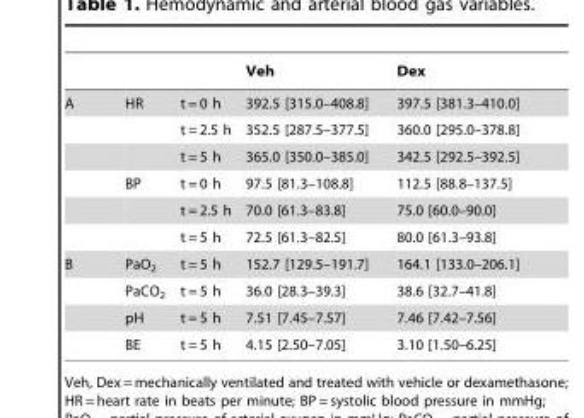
<table><thead><tr><td></td><td></td><td></td><td>Veh</td><td>Dex</td></tr></thead><tbody><tr><td rowspan="6">A</td><td>HR</td><td>t = 0 h</td><td>392.5 [315.0–408.8]</td><td>397.5 [381.3–410.0]</td></tr><tr><td></td><td>t = 2.5 h</td><td>352.5 [287.5–377.5]</td><td>360.0 [295.0–378.8]</td></tr><tr><td></td><td>t = 5 h</td><td>365.0 [350.0–385.0]</td><td>342.5 [292.5–392.5]</td></tr><tr><td>BP</td><td>t = 0 h</td><td>97.5 [81.3–108.8]</td><td>112.5 [88.8–137.5]</td></tr><tr><td></td><td>t = 2.5 h</td><td>70.0 [61.3–83.8]</td><td>75.0 [60.0–90.0]</td></tr><tr><td></td><td>t = 5 h</td><td>72.5 [61.3–82.5]</td><td>80.0 [61.3–93.8]</td></tr><tr><td rowspan="4">B</td><td>PaO<sub>2</sub></td><td>t = 5 h</td><td>152.7 [129.5–191.7]</td><td>164.1 [133.0–206.1]</td></tr><tr><td>PaCO<sub>2</sub></td><td>t = 5 h</td><td>36.0 [28.3–39.3]</td><td>38.6 [32.7–41.8]</td></tr><tr><td>pH</td><td>t = 5 h</td><td>7.51 [7.45–7.57]</td><td>7.46 [7.42–7.56]</td></tr><tr><td>BE</td><td>t = 5 h</td><td>4.15 [2.50–7.05]</td><td>3.10 [1.50–6.25]</td></tr></tbody></table>